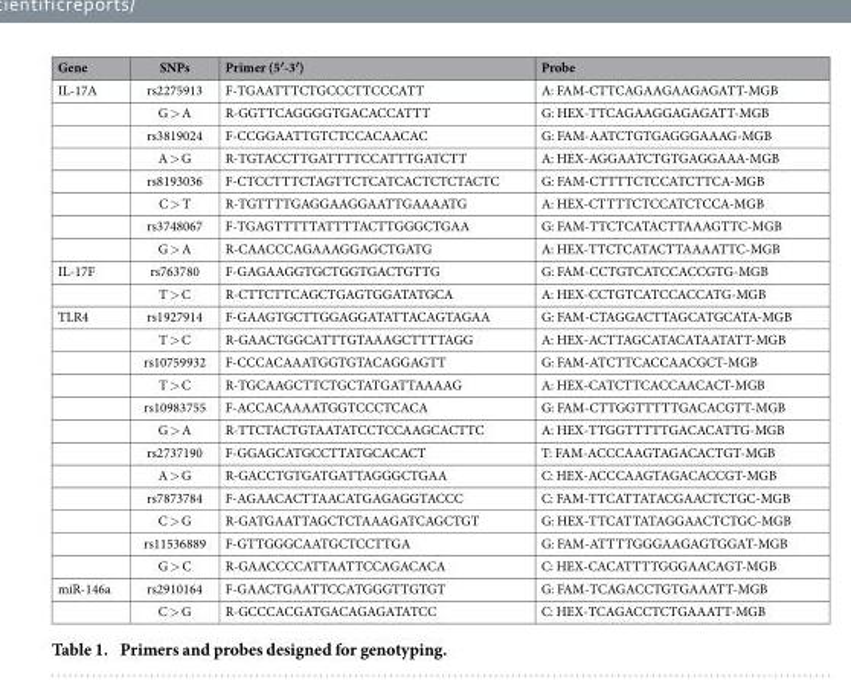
<table><thead><tr><td>Gene</td><td>SNPs</td><td>Primer (5′-3′)</td><td>Probe</td></tr></thead><tbody><tr><td rowspan="8">IL-17A</td><td>rs2275913</td><td>F-TGAATTTCTGCCCTTCCCATT</td><td>A: FAM-CTTCAGAAGAAGAGATT-MGB</td></tr><tr><td>G &gt; A</td><td>R-GGTTCAGGGGTGACACCATTT</td><td>G: HEX-TTCAGAAGGAGAGATT-MGB</td></tr><tr><td>rs3819024</td><td>F-CCGGAATTGTCTCCACAACAC</td><td>G: FAM-AATCTGTGAGGGAAAG-MGB</td></tr><tr><td>A &gt; G</td><td>R-TGTACCTTGATTTTCCATTTGATCTT</td><td>A: HEX-AGGAATCTGTGAGGAAA-MGB</td></tr><tr><td>rs8193036</td><td>F-CTCCTTTCTAGTTCTCATCACTCTCTACTC</td><td>G: FAM-CTTTTCTCCATCTTCA-MGB</td></tr><tr><td>C &gt; T</td><td>R-TGTTTTGAGGAAGGAATTGAAAATG</td><td>A: HEX-CTTTTCTCCATCTCCA-MGB</td></tr><tr><td>rs3748067</td><td>F-TGAGTTTTTATTTTACTTGGGCTGAA</td><td>G: FAM-TTCTCATACTTAAAGTTC-MGB</td></tr><tr><td>G &gt; A</td><td>R-CAACCCAGAAAGGAGCTGATG</td><td>A: HEX-TTCTCATACTTAAAATTC-MGB</td></tr><tr><td rowspan="2">IL-17F</td><td>rs763780</td><td>F-GAGAAGGTGCTGGTGACTGTTG</td><td>G: FAM-CCTGTCATCCACCGTG-MGB</td></tr><tr><td>T &gt; C</td><td>R-CTTCTTCAGCTGAGTGGATATGCA</td><td>A: HEX-CCTGTCATCCACCATG-MGB</td></tr><tr><td rowspan="12">TLR4</td><td>rs1927914</td><td>F-GAAGTGCTTGGAGGATATTACAGTAGAA</td><td>G: FAM-CTAGGACTTAGCATGCATA-MGB</td></tr><tr><td>T &gt; C</td><td>R-GAACTGGCATTTGTAAAGCTTTTAGG</td><td>A: HEX-ACTTAGCATACATAATATT-MGB</td></tr><tr><td>rs10759932</td><td>F-CCCACAAATGGTGTACAGGAGTT</td><td>G: FAM-ATCTTCACCAACGCT-MGB</td></tr><tr><td>T &gt; C</td><td>R-TGCAAGCTTCTGCTATGATTAAAAG</td><td>A: HEX-CATCTTCACCAACACT-MGB</td></tr><tr><td>rs10983755</td><td>F-ACCACAAAATGGTCCCTCACA</td><td>G: FAM-CTTGGTTTTTGACACGTT-MGB</td></tr><tr><td>G &gt; A</td><td>R-TTCTACTGTAATATCCTCCAAGCACTTC</td><td>A: HEX-TTGGTTTTTGACACATTG-MGB</td></tr><tr><td>rs2737190</td><td>F-GGAGCATGCCTTATGCACACT</td><td>T: FAM-ACCCAAGTAGACACTGT-MGB</td></tr><tr><td>A &gt; G</td><td>R-GACCTGTGATGATTAGGGCTGAA</td><td>C: HEX-ACCCAAGTAGACACCGT-MGB</td></tr><tr><td>rs7873784</td><td>F-AGAACACTTAACATGAGAGGTACCC</td><td>C: FAM-TTCATTATACGAACTCTGC-MGB</td></tr><tr><td>C &gt; G</td><td>R-GATGAATTAGCTCTAAAGATCAGCTGT</td><td>G: HEX-TTCATTATAGGAACTCTGC-MGB</td></tr><tr><td>rs11536889</td><td>F-GTTGGGCAATGCTCCTTGA</td><td>G: FAM-ATTTTGGGAAGAGTGGAT-MGB</td></tr><tr><td>G &gt; C</td><td>R-GAACCCCATTAATTCCAGACACA</td><td>C: HEX-CACATTTTGGGAACAGT-MGB</td></tr><tr><td rowspan="2">miR-146a</td><td>rs2910164</td><td>F-GAACTGAATTCCATGGGTTGTGT</td><td>G: FAM-TCAGACCTGTGAAATT-MGB</td></tr><tr><td>C &gt; G</td><td>R-GCCCACGATGACAGAGATATCC</td><td>C: HEX-TCAGACCTCTGAAATT-MGB</td></tr></tbody></table>